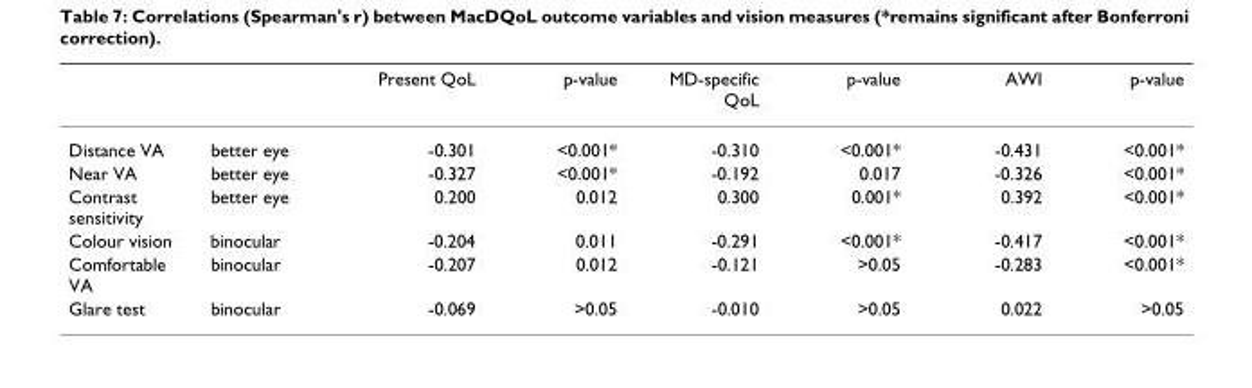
<table><thead><tr><td></td><td></td><td>Present QoL</td><td>p-value</td><td>MD-specific QoL</td><td>p-value</td><td>AWI</td><td>p-value</td></tr></thead><tbody><tr><td>Distance VA</td><td>better eye</td><td>-0.301</td><td>&lt;0.001*</td><td>-0.310</td><td>&lt;0.001*</td><td>-0.431</td><td>&lt;0.001*</td></tr><tr><td>Near VA</td><td>better eye</td><td>-0.327</td><td>&lt;0.001*</td><td>-0.192</td><td>0.017</td><td>-0.326</td><td>&lt;0.001*</td></tr><tr><td>Contrast sensitivity</td><td>better eye</td><td>0.200</td><td>0.012</td><td>0.300</td><td>0.001*</td><td>0.392</td><td>&lt;0.001*</td></tr><tr><td>Colour vision</td><td>binocular</td><td>-0.204</td><td>0.011</td><td>-0.291</td><td>&lt;0.001*</td><td>-0.417</td><td>&lt;0.001*</td></tr><tr><td>Comfortable VA</td><td>binocular</td><td>-0.207</td><td>0.012</td><td>-0.121</td><td>&gt;0.05</td><td>-0.283</td><td>&lt;0.001*</td></tr><tr><td>Glare test</td><td>binocular</td><td>-0.069</td><td>&gt;0.05</td><td>-0.010</td><td>&gt;0.05</td><td>0.022</td><td>&gt;0.05</td></tr></tbody></table>